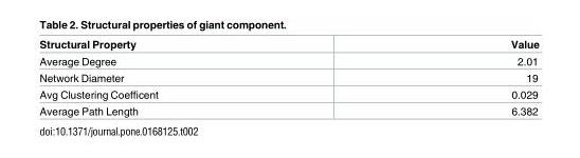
<table><thead><tr><td>Structural Property</td><td>Value</td></tr></thead><tbody><tr><td>Average Degree</td><td>2.01</td></tr><tr><td>Network Diameter</td><td>19</td></tr><tr><td>Avg Clustering Coefficent</td><td>0.029</td></tr><tr><td>Average Path Length</td><td>6.382</td></tr></tbody></table>